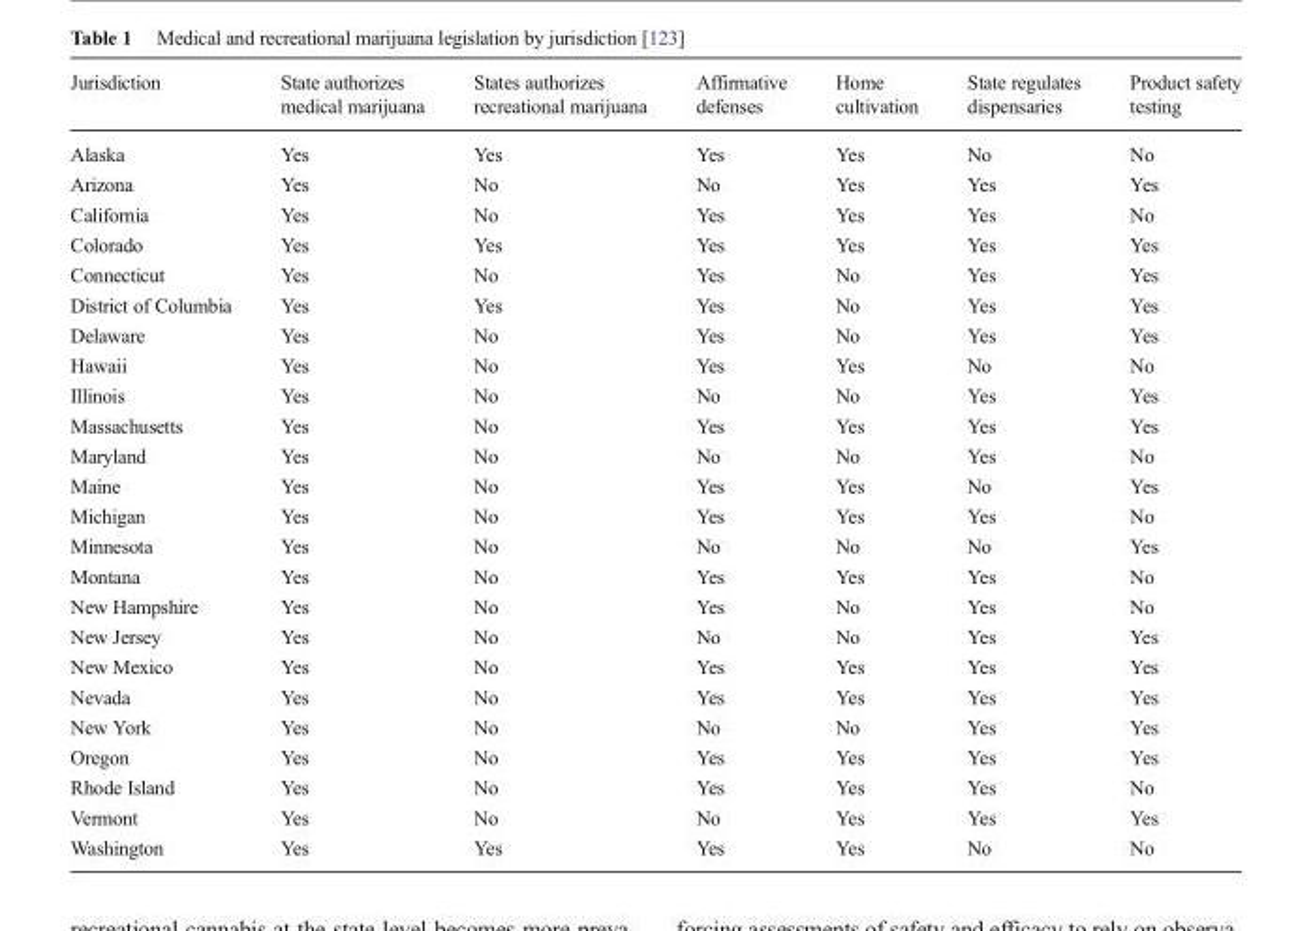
<table><thead><tr><td>Jurisdiction</td><td>State authorizes medical marijuana</td><td>States authorizes recreational marijuana</td><td>Affirmative defenses</td><td>Home cultivation</td><td>State regulates dispensaries</td><td>Product safety testing</td></tr></thead><tbody><tr><td>Alaska</td><td>Yes</td><td>Yes</td><td>Yes</td><td>Yes</td><td>No</td><td>No</td></tr><tr><td>Arizona</td><td>Yes</td><td>No</td><td>No</td><td>Yes</td><td>Yes</td><td>Yes</td></tr><tr><td>California</td><td>Yes</td><td>No</td><td>Yes</td><td>Yes</td><td>Yes</td><td>No</td></tr><tr><td>Colorado</td><td>Yes</td><td>Yes</td><td>Yes</td><td>Yes</td><td>Yes</td><td>Yes</td></tr><tr><td>Connecticut</td><td>Yes</td><td>No</td><td>Yes</td><td>No</td><td>Yes</td><td>Yes</td></tr><tr><td>District of Columbia</td><td>Yes</td><td>Yes</td><td>Yes</td><td>No</td><td>Yes</td><td>Yes</td></tr><tr><td>Delaware</td><td>Yes</td><td>No</td><td>Yes</td><td>No</td><td>Yes</td><td>Yes</td></tr><tr><td>Hawaii</td><td>Yes</td><td>No</td><td>Yes</td><td>Yes</td><td>No</td><td>No</td></tr><tr><td>Illinois</td><td>Yes</td><td>No</td><td>No</td><td>No</td><td>Yes</td><td>Yes</td></tr><tr><td>Massachusetts</td><td>Yes</td><td>No</td><td>Yes</td><td>Yes</td><td>Yes</td><td>Yes</td></tr><tr><td>Maryland</td><td>Yes</td><td>No</td><td>No</td><td>No</td><td>Yes</td><td>No</td></tr><tr><td>Maine</td><td>Yes</td><td>No</td><td>Yes</td><td>Yes</td><td>No</td><td>Yes</td></tr><tr><td>Michigan</td><td>Yes</td><td>No</td><td>Yes</td><td>Yes</td><td>Yes</td><td>No</td></tr><tr><td>Minnesota</td><td>Yes</td><td>No</td><td>No</td><td>No</td><td>No</td><td>Yes</td></tr><tr><td>Montana</td><td>Yes</td><td>No</td><td>Yes</td><td>Yes</td><td>Yes</td><td>No</td></tr><tr><td>New Hampshire</td><td>Yes</td><td>No</td><td>Yes</td><td>No</td><td>Yes</td><td>No</td></tr><tr><td>New Jersey</td><td>Yes</td><td>No</td><td>No</td><td>No</td><td>Yes</td><td>Yes</td></tr><tr><td>New Mexico</td><td>Yes</td><td>No</td><td>Yes</td><td>Yes</td><td>Yes</td><td>Yes</td></tr><tr><td>Nevada</td><td>Yes</td><td>No</td><td>Yes</td><td>Yes</td><td>Yes</td><td>Yes</td></tr><tr><td>New York</td><td>Yes</td><td>No</td><td>No</td><td>No</td><td>Yes</td><td>Yes</td></tr><tr><td>Oregon</td><td>Yes</td><td>No</td><td>Yes</td><td>Yes</td><td>Yes</td><td>Yes</td></tr><tr><td>Rhode Island</td><td>Yes</td><td>No</td><td>Yes</td><td>Yes</td><td>Yes</td><td>No</td></tr><tr><td>Vermont</td><td>Yes</td><td>No</td><td>No</td><td>Yes</td><td>Yes</td><td>Yes</td></tr><tr><td>Washington</td><td>Yes</td><td>Yes</td><td>Yes</td><td>Yes</td><td>No</td><td>No</td></tr></tbody></table>